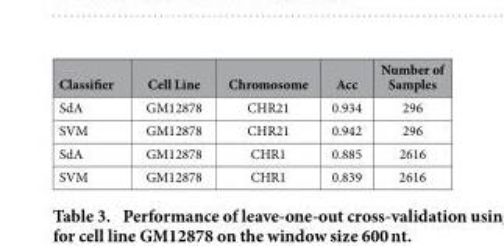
<table><thead><tr><td>Classifier</td><td>Cell Line</td><td>Chromosome</td><td>Acc</td><td>Number of Samples</td></tr></thead><tbody><tr><td>SdA</td><td>GM12878</td><td>CHR21</td><td>0.934</td><td>296</td></tr><tr><td>SVM</td><td>GM12878</td><td>CHR21</td><td>0.942</td><td>296</td></tr><tr><td>SdA</td><td>GM12878</td><td>CHR1</td><td>0.885</td><td>2616</td></tr><tr><td>SVM</td><td>GM12878</td><td>CHR1</td><td>0.839</td><td>2616</td></tr></tbody></table>